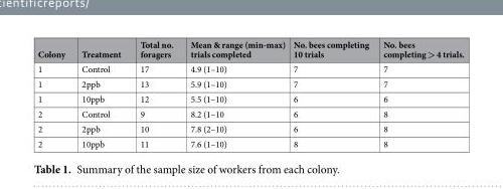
<table><thead><tr><td>Colony</td><td>Treatment</td><td>Total no. foragers</td><td>Mean &amp; range (min-max) trials completed</td><td>No. bees completing 10 trials</td><td>No. bees completing &gt; 4 trials.</td></tr></thead><tbody><tr><td>1</td><td>Control</td><td>17</td><td>4.9 (1–10)</td><td>7</td><td>7</td></tr><tr><td>1</td><td>2ppb</td><td>13</td><td>5.9 (1–10)</td><td>7</td><td>7</td></tr><tr><td>1</td><td>10ppb</td><td>12</td><td>5.5 (1–10)</td><td>6</td><td>6</td></tr><tr><td>2</td><td>Control</td><td>9</td><td>8.2 (1–10</td><td>6</td><td>8</td></tr><tr><td>2</td><td>2ppb</td><td>10</td><td>7.8 (2–10)</td><td>6</td><td>8</td></tr><tr><td>2</td><td>10ppb</td><td>11</td><td>7.6 (1–10)</td><td>8</td><td>8</td></tr></tbody></table>